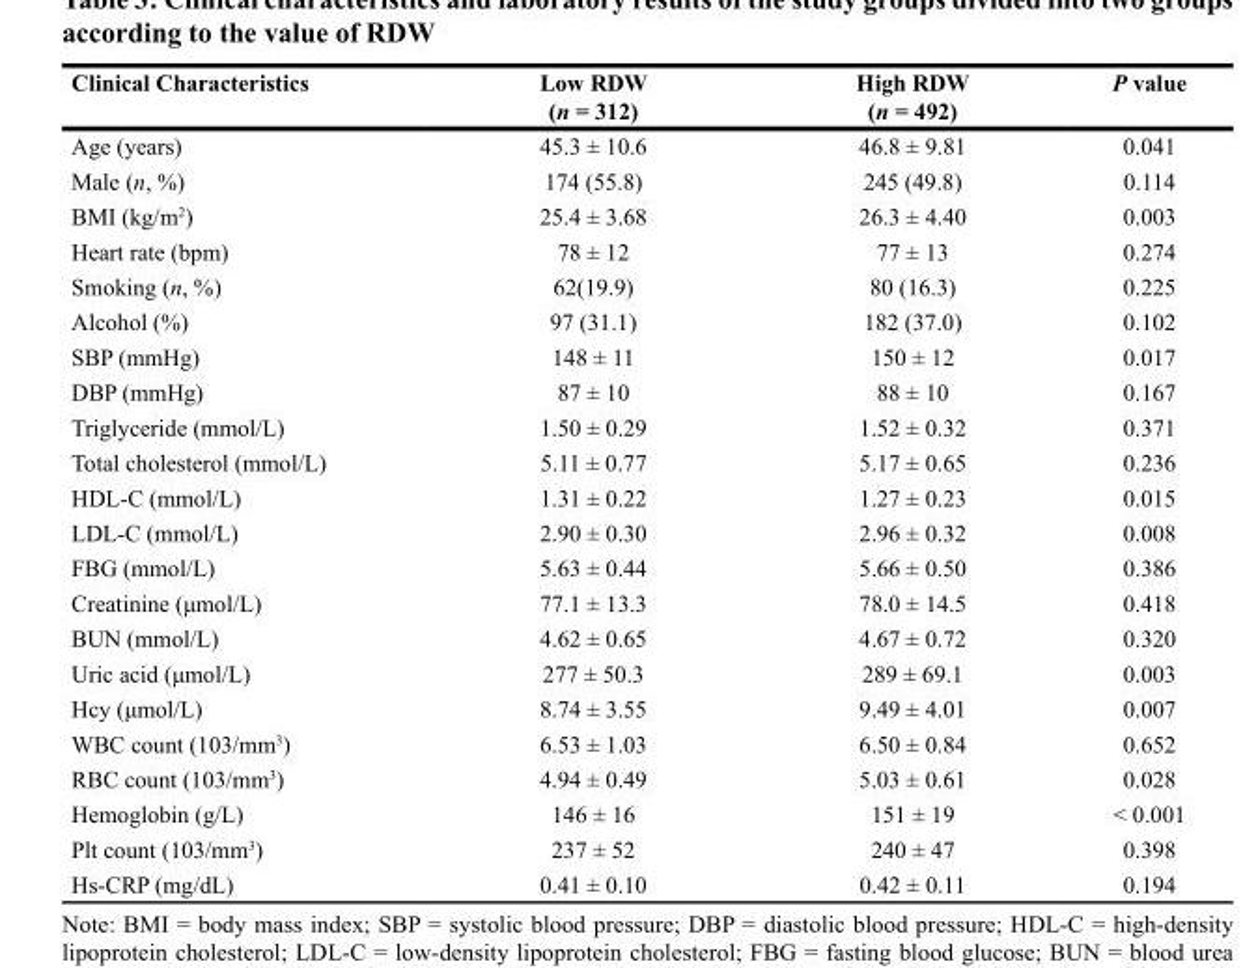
<table><thead><tr><td>Clinical Characteristics</td><td>Low RDW (n = 312)</td><td>High RDW (n = 492)</td><td>P value</td></tr></thead><tbody><tr><td>Age (years)</td><td>45.3 ± 10.6</td><td>46.8 ± 9.81</td><td>0.041</td></tr><tr><td>Male (n, %)</td><td>174 (55.8)</td><td>245 (49.8)</td><td>0.114</td></tr><tr><td>BMI (kg/m<sup>2</sup>)</td><td>25.4 ± 3.68</td><td>26.3 ± 4.40</td><td>0.003</td></tr><tr><td>Heart rate (bpm)</td><td>78 ± 12</td><td>77 ± 13</td><td>0.274</td></tr><tr><td>Smoking (n, %)</td><td>62(19.9)</td><td>80 (16.3)</td><td>0.225</td></tr><tr><td>Alcohol (%)</td><td>97 (31.1)</td><td>182 (37.0)</td><td>0.102</td></tr><tr><td>SBP (mmHg)</td><td>148 ± 11</td><td>150 ± 12</td><td>0.017</td></tr><tr><td>DBP (mmHg)</td><td>87 ± 10</td><td>88 ± 10</td><td>0.167</td></tr><tr><td>Triglyceride (mmol/L)</td><td>1.50 ± 0.29</td><td>1.52 ± 0.32</td><td>0.371</td></tr><tr><td>Total cholesterol (mmol/L)</td><td>5.11 ± 0.77</td><td>5.17 ± 0.65</td><td>0.236</td></tr><tr><td>HDL-C (mmol/L)</td><td>1.31 ± 0.22</td><td>1.27 ± 0.23</td><td>0.015</td></tr><tr><td>LDL-C (mmol/L)</td><td>2.90 ± 0.30</td><td>2.96 ± 0.32</td><td>0.008</td></tr><tr><td>FBG (mmol/L)</td><td>5.63 ± 0.44</td><td>5.66 ± 0.50</td><td>0.386</td></tr><tr><td>Creatinine (μmol/L)</td><td>77.1 ± 13.3</td><td>78.0 ± 14.5</td><td>0.418</td></tr><tr><td>BUN (mmol/L)</td><td>4.62 ± 0.65</td><td>4.67 ± 0.72</td><td>0.320</td></tr><tr><td>Uric acid (μmol/L)</td><td>277 ± 50.3</td><td>289 ± 69.1</td><td>0.003</td></tr><tr><td>Hcy (μmol/L)</td><td>8.74 ± 3.55</td><td>9.49 ± 4.01</td><td>0.007</td></tr><tr><td>WBC count (103/mm<sup>3</sup>)</td><td>6.53 ± 1.03</td><td>6.50 ± 0.84</td><td>0.652</td></tr><tr><td>RBC count (103/mm<sup>3</sup>)</td><td>4.94 ± 0.49</td><td>5.03 ± 0.61</td><td>0.028</td></tr><tr><td>Hemoglobin (g/L)</td><td>146 ± 16</td><td>151 ± 19</td><td>&lt; 0.001</td></tr><tr><td>Plt count (103/mm<sup>3</sup>)</td><td>237 ± 52</td><td>240 ± 47</td><td>0.398</td></tr><tr><td>Hs-CRP (mg/dL)</td><td>0.41 ± 0.10</td><td>0.42 ± 0.11</td><td>0.194</td></tr></tbody></table>